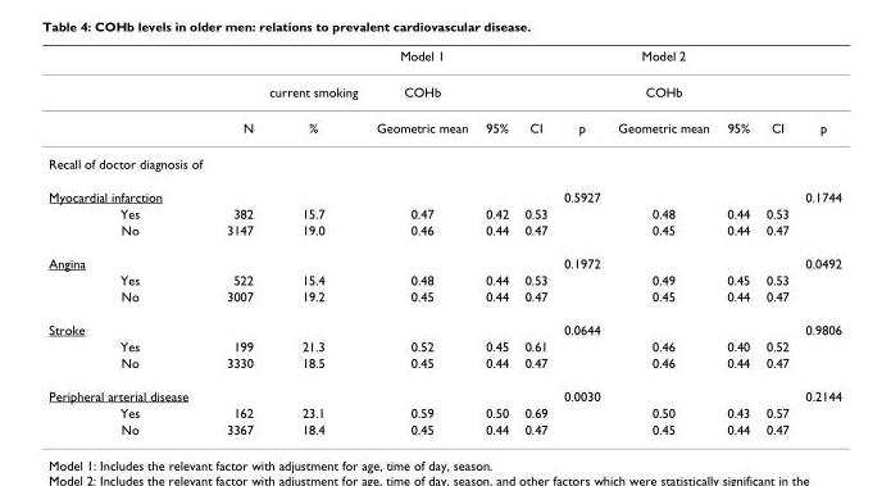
<table><thead><tr><td></td><td></td><td></td><td>Model 1</td><td></td><td></td><td></td><td>Model 2</td><td></td><td></td><td></td></tr></thead><tbody><tr><td></td><td></td><td>current smoking</td><td>COHb</td><td></td><td></td><td></td><td>COHb</td><td></td><td></td><td></td></tr><tr><td></td><td>N</td><td>%</td><td>Geometric mean</td><td>95%</td><td>CI</td><td>p</td><td>Geometric mean</td><td>95%</td><td>CI</td><td>p</td></tr><tr><td colspan="11">Recall of doctor diagnosis of</td></tr><tr><td>Myocardial infarction</td><td></td><td></td><td></td><td></td><td></td><td>0.5927</td><td></td><td></td><td></td><td>0.1744</td></tr><tr><td>Yes</td><td>382</td><td>15.7</td><td>0.47</td><td>0.42</td><td>0.53</td><td></td><td>0.48</td><td>0.44</td><td>0.53</td><td></td></tr><tr><td>No</td><td>3147</td><td>19.0</td><td>0.46</td><td>0.44</td><td>0.47</td><td></td><td>0.45</td><td>0.44</td><td>0.47</td><td></td></tr><tr><td>Angina</td><td></td><td></td><td></td><td></td><td></td><td>0.1972</td><td></td><td></td><td></td><td>0.0492</td></tr><tr><td>Yes</td><td>522</td><td>15.4</td><td>0.48</td><td>0.44</td><td>0.53</td><td></td><td>0.49</td><td>0.45</td><td>0.53</td><td></td></tr><tr><td>No</td><td>3007</td><td>19.2</td><td>0.45</td><td>0.44</td><td>0.47</td><td></td><td>0.45</td><td>0.44</td><td>0.47</td><td></td></tr><tr><td>Stroke</td><td></td><td></td><td></td><td></td><td></td><td>0.0644</td><td></td><td></td><td></td><td>0.9806</td></tr><tr><td>Yes</td><td>199</td><td>21.3</td><td>0.52</td><td>0.45</td><td>0.61</td><td></td><td>0.46</td><td>0.40</td><td>0.52</td><td></td></tr><tr><td>No</td><td>3330</td><td>18.5</td><td>0.45</td><td>0.44</td><td>0.47</td><td></td><td>0.46</td><td>0.44</td><td>0.47</td><td></td></tr><tr><td>Peripheral arterial disease</td><td></td><td></td><td></td><td></td><td></td><td>0.0030</td><td></td><td></td><td></td><td>0.2144</td></tr><tr><td>Yes</td><td>162</td><td>23.1</td><td>0.59</td><td>0.50</td><td>0.69</td><td></td><td>0.50</td><td>0.43</td><td>0.57</td><td></td></tr><tr><td>No</td><td>3367</td><td>18.4</td><td>0.45</td><td>0.44</td><td>0.47</td><td></td><td>0.45</td><td>0.44</td><td>0.47</td><td></td></tr></tbody></table>